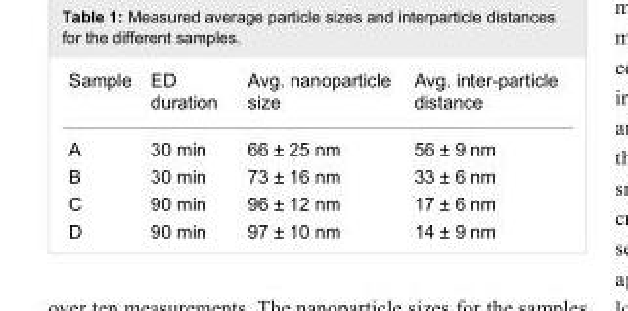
<table><tbody><tr><td>Sample</td><td>ED duration</td><td>Avg. nanoparticle size</td><td>Avg. inter-particle distance</td></tr><tr><td>A</td><td>30 min</td><td>66 ± 25 nm</td><td>56 ± 9 nm</td></tr><tr><td>B</td><td>30 min</td><td>73 ± 16 nm</td><td>33 ± 6 nm</td></tr><tr><td>C</td><td>90 min</td><td>96 ± 12 nm</td><td>17 ± 6 nm</td></tr><tr><td>D</td><td>90 min</td><td>97 ± 10 nm</td><td>14 ± 9 nm</td></tr></tbody></table>